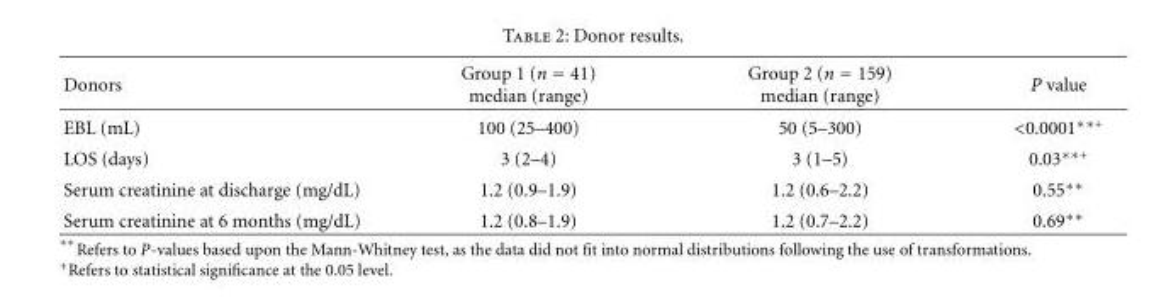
<table><thead><tr><td>Donors</td><td>Group 1 (n = 41) median (range)</td><td>Group 2 (n = 159) median (range)</td><td>P value</td></tr></thead><tbody><tr><td>EBL (mL)</td><td>100 (25–400)</td><td>50 (5–300)</td><td>&lt;0.0001<sup>∗∗+</sup></td></tr><tr><td>LOS (days)</td><td>3 (2–4)</td><td>3 (1–5)</td><td>0.03<sup>∗∗+</sup></td></tr><tr><td>Serum creatinine at discharge (mg/dL)</td><td>1.2 (0.9–1.9)</td><td>1.2 (0.6–2.2)</td><td>0.55∗∗</td></tr><tr><td>Serum creatinine at 6 months (mg/dL)</td><td>1.2 (0.8–1.9)</td><td>1.2 (0.7–2.2)</td><td>0.69∗∗</td></tr></tbody></table>